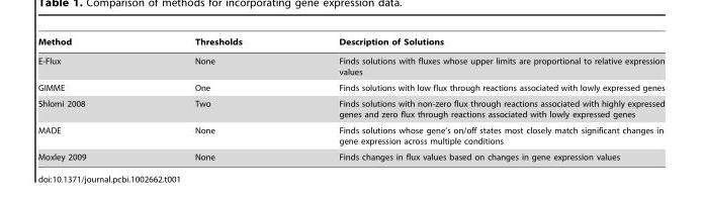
<table><thead><tr><td>Method</td><td>Thresholds</td><td>Description of Solutions</td></tr></thead><tbody><tr><td>E-Flux</td><td>None</td><td>Finds solutions with fluxes whose upper limits are proportional to relative expression values</td></tr><tr><td>GIMME</td><td>One</td><td>Finds solutions with low flux through reactions associated with lowly expressed genes</td></tr><tr><td>Shlomi 2008</td><td>Two</td><td>Finds solutions with non-zero flux through reactions associated with highly expressed genes and zero flux through reactions associated with lowly expressed genes</td></tr><tr><td>MADE</td><td>None</td><td>Finds solutions whose gene’s on/off states most closely match significant changes in gene expression across multiple conditions</td></tr><tr><td>Moxley 2009</td><td>None</td><td>Finds changes in flux values based on changes in gene expression values</td></tr></tbody></table>